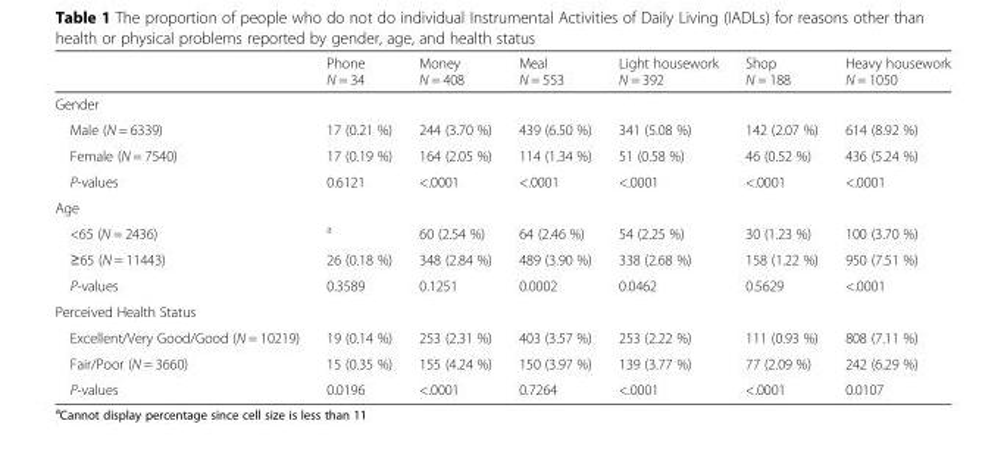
<table><thead><tr><td></td><td>Phone N = 34</td><td>Money N = 408</td><td>Meal N = 553</td><td>Light housework N = 392</td><td>Shop N = 188</td><td>Heavy housework N = 1050</td></tr></thead><tbody><tr><td colspan="7">Gender</td></tr><tr><td>Male (N = 6339)</td><td>17 (0.21 %)</td><td>244 (3.70 %)</td><td>439 (6.50 %)</td><td>341 (5.08 %)</td><td>142 (2.07 %)</td><td>614 (8.92 %)</td></tr><tr><td>Female (N = 7540)</td><td>17 (0.19 %)</td><td>164 (2.05 %)</td><td>114 (1.34 %)</td><td>51 (0.58 %)</td><td>46 (0.52 %)</td><td>436 (5.24 %)</td></tr><tr><td>P-values</td><td>0.6121</td><td>&lt;.0001</td><td>&lt;.0001</td><td>&lt;.0001</td><td>&lt;.0001</td><td>&lt;.0001</td></tr><tr><td colspan="7">Age</td></tr><tr><td>&lt;65 (N = 2436)</td><td><sup>a</sup></td><td>60 (2.54 %)</td><td>64 (2.46 %)</td><td>54 (2.25 %)</td><td>30 (1.23 %)</td><td>100 (3.70 %)</td></tr><tr><td>≥65 (N = 11443)</td><td>26 (0.18 %)</td><td>348 (2.84 %)</td><td>489 (3.90 %)</td><td>338 (2.68 %)</td><td>158 (1.22 %)</td><td>950 (7.51 %)</td></tr><tr><td>P-values</td><td>0.3589</td><td>0.1251</td><td>0.0002</td><td>0.0462</td><td>0.5629</td><td>&lt;.0001</td></tr><tr><td colspan="7">Perceived Health Status</td></tr><tr><td>Excellent/Very Good/Good (N = 10219)</td><td>19 (0.14 %)</td><td>253 (2.31 %)</td><td>403 (3.57 %)</td><td>253 (2.22 %)</td><td>111 (0.93 %)</td><td>808 (7.11 %)</td></tr><tr><td>Fair/Poor (N = 3660)</td><td>15 (0.35 %)</td><td>155 (4.24 %)</td><td>150 (3.97 %)</td><td>139 (3.77 %)</td><td>77 (2.09 %)</td><td>242 (6.29 %)</td></tr><tr><td>P-values</td><td>0.0196</td><td>&lt;.0001</td><td>0.7264</td><td>&lt;.0001</td><td>&lt;.0001</td><td>0.0107</td></tr></tbody></table>